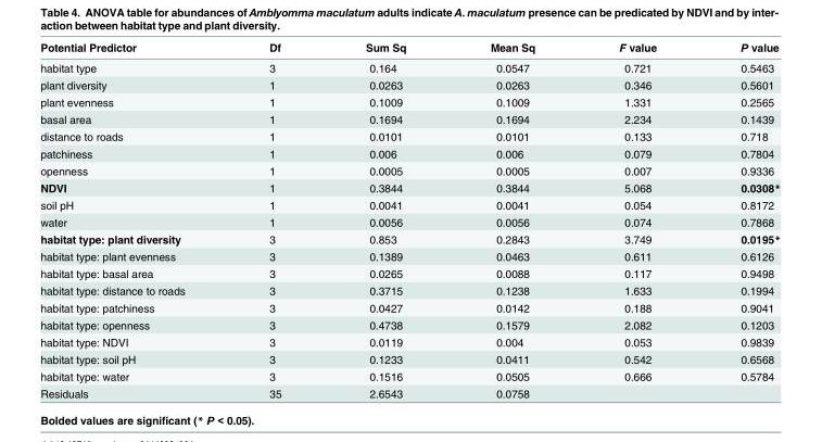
<table><thead><tr><td>Potential Predictor</td><td>Df</td><td>Sum Sq</td><td>Mean Sq</td><td>F value</td><td>P value</td></tr></thead><tbody><tr><td>habitat type</td><td>3</td><td>0.164</td><td>0.0547</td><td>0.721</td><td>0.5463</td></tr><tr><td>plant diversity</td><td>1</td><td>0.0263</td><td>0.0263</td><td>0.346</td><td>0.5601</td></tr><tr><td>plant evenness</td><td>1</td><td>0.1009</td><td>0.1009</td><td>1.331</td><td>0.2565</td></tr><tr><td>basal area</td><td>1</td><td>0.1694</td><td>0.1694</td><td>2.234</td><td>0.1439</td></tr><tr><td>distance to roads</td><td>1</td><td>0.0101</td><td>0.0101</td><td>0.133</td><td>0.718</td></tr><tr><td>patchiness</td><td>1</td><td>0.006</td><td>0.006</td><td>0.079</td><td>0.7804</td></tr><tr><td>openness</td><td>1</td><td>0.0005</td><td>0.0005</td><td>0.007</td><td>0.9336</td></tr><tr><td>NDVI</td><td>1</td><td>0.3844</td><td>0.3844</td><td>5.068</td><td>0.0308*</td></tr><tr><td>soil pH</td><td>1</td><td>0.0041</td><td>0.0041</td><td>0.054</td><td>0.8172</td></tr><tr><td>water</td><td>1</td><td>0.0056</td><td>0.0056</td><td>0.074</td><td>0.7868</td></tr><tr><td>habitat type: plant diversity</td><td>3</td><td>0.853</td><td>0.2843</td><td>3.749</td><td>0.0195*</td></tr><tr><td>habitat type: plant evenness</td><td>3</td><td>0.1389</td><td>0.0463</td><td>0.611</td><td>0.6126</td></tr><tr><td>habitat type: basal area</td><td>3</td><td>0.0265</td><td>0.0088</td><td>0.117</td><td>0.9498</td></tr><tr><td>habitat type: distance to roads</td><td>3</td><td>0.3715</td><td>0.1238</td><td>1.633</td><td>0.1994</td></tr><tr><td>habitat type: patchiness</td><td>3</td><td>0.0427</td><td>0.0142</td><td>0.188</td><td>0.9041</td></tr><tr><td>habitat type: openness</td><td>3</td><td>0.4738</td><td>0.1579</td><td>2.082</td><td>0.1203</td></tr><tr><td>habitat type: NDVI</td><td>3</td><td>0.0119</td><td>0.004</td><td>0.053</td><td>0.9839</td></tr><tr><td>habitat type: soil pH</td><td>3</td><td>0.1233</td><td>0.0411</td><td>0.542</td><td>0.6568</td></tr><tr><td>habitat type: water</td><td>3</td><td>0.1516</td><td>0.0505</td><td>0.666</td><td>0.5784</td></tr><tr><td>Residuals</td><td>35</td><td>2.6543</td><td>0.0758</td><td></td><td></td></tr></tbody></table>